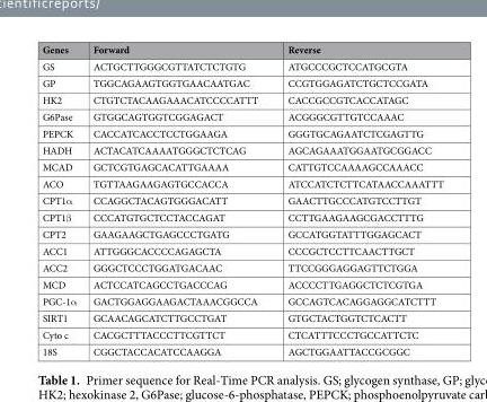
<table><thead><tr><td>Genes</td><td>Forward</td><td>Reverse</td></tr></thead><tbody><tr><td>GS</td><td>ACTGCTTGGGCGTTATCTCTGTG</td><td>ATGCCCGCTCCATGCGTA</td></tr><tr><td>GP</td><td>TGGCAGAAGTGGTGAACAATGAC</td><td>CCGTGGAGATCTGCTCCGATA</td></tr><tr><td>HK2</td><td>CTGTCTACAAGAAACATCCCCATTT</td><td>CACCGCCGTCACCATAGC</td></tr><tr><td>G6Pase</td><td>GTGGCAGTGGTCGGAGACT</td><td>ACGGGCGTTGTCCAAAC</td></tr><tr><td>PEPCK</td><td>CACCATCACCTCCTGGAAGA</td><td>GGGTGCAGAATCTCGAGTTG</td></tr><tr><td>HADH</td><td>ACTACATCAAAATGGGCTCTCAG</td><td>AGCAGAAATGGAATGCGGACC</td></tr><tr><td>MCAD</td><td>GCTCGTGAGCACATTGAAAA</td><td>CATTGTCCAAAAGCCAAACC</td></tr><tr><td>ACO</td><td>TGTTAAGAAGAGTGCCACCA</td><td>ATCCATCTCTTCATAACCAAATTT</td></tr><tr><td>CPT1α</td><td>CCAGGCTACAGTGGGACATT</td><td>GAACTTGCCCATGTCCTTGT</td></tr><tr><td>CPT1β</td><td>CCCATGTGCTCCTACCAGAT</td><td>CCTTGAAGAAGCGACCTTTG</td></tr><tr><td>CPT2</td><td>GAAGAAGCTGAGCCCTGATG</td><td>GCCATGGTATTTGGAGCACT</td></tr><tr><td>ACC1</td><td>ATTGGGCACCCCAGAGCTA</td><td>CCCGCTCCTTCAACTTGCT</td></tr><tr><td>ACC2</td><td>GGGCTCCCTGGATGACAAC</td><td>TTCCGGGAGGAGTTCTGGA</td></tr><tr><td>MCD</td><td>ACTCCATCAGCCTGACCCAG</td><td>ACCCCTTGAGGCTCTCGTGA</td></tr><tr><td>PGC-1α</td><td>GACTGGAGGAAGACTAAACGGCCA</td><td>GCCAGTCACAGGAGGCATCTTT</td></tr><tr><td>SIRT1</td><td>GCAACAGCATCTTGCCTGAT</td><td>GTGCTACTGGTCTCACTT</td></tr><tr><td>Cyto c</td><td>CACGCTTTACCCTTCGTTCT</td><td>CTCATTTCCCTGCCATTCTC</td></tr><tr><td>18S</td><td>CGGCTACCACATCCAAGGA</td><td>AGCTGGAATTACCGCGGC</td></tr></tbody></table>